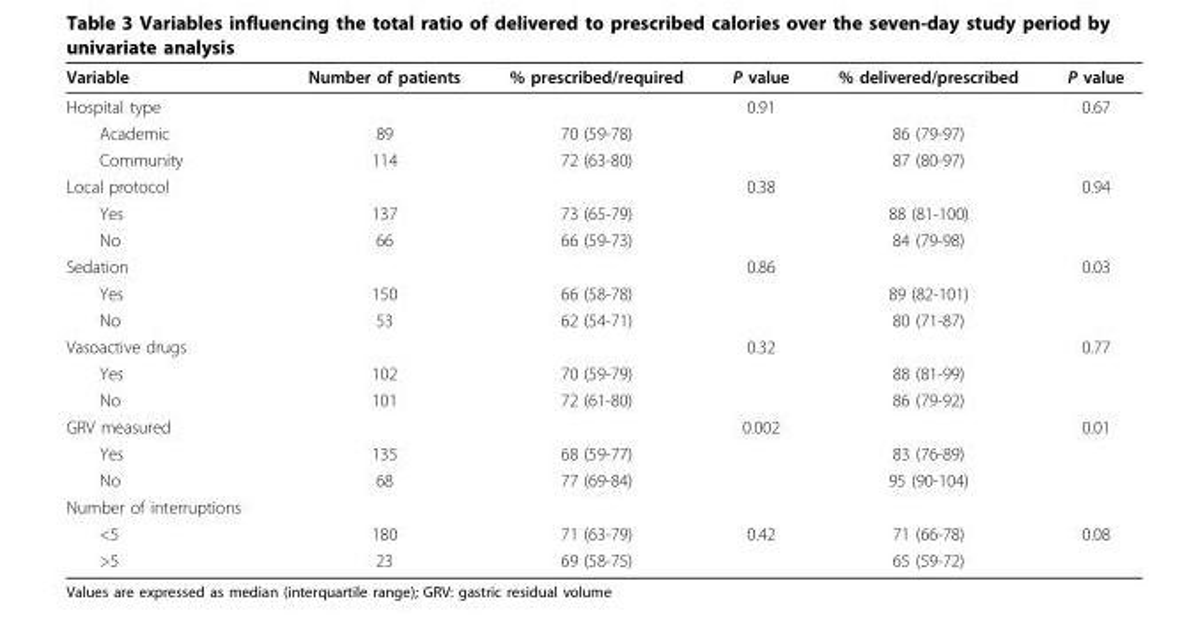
<table><thead><tr><td>Variable</td><td>Number of patients</td><td>% prescribed/required</td><td>P value</td><td>% delivered/prescribed</td><td>P value</td></tr></thead><tbody><tr><td>Hospital type</td><td></td><td></td><td>0.91</td><td></td><td>0.67</td></tr><tr><td>Academic</td><td>89</td><td>70 (59-78)</td><td></td><td>86 (79-97)</td><td></td></tr><tr><td>Community</td><td>114</td><td>72 (63-80)</td><td></td><td>87 (80-97)</td><td></td></tr><tr><td>Local protocol</td><td></td><td></td><td>0.38</td><td></td><td>0.94</td></tr><tr><td>Yes</td><td>137</td><td>73 (65-79)</td><td></td><td>88 (81-100)</td><td></td></tr><tr><td>No</td><td>66</td><td>66 (59-73)</td><td></td><td>84 (79-98)</td><td></td></tr><tr><td>Sedation</td><td></td><td></td><td>0.86</td><td></td><td>0.03</td></tr><tr><td>Yes</td><td>150</td><td>66 (58-78)</td><td></td><td>89 (82-101)</td><td></td></tr><tr><td>No</td><td>53</td><td>62 (54-71)</td><td></td><td>80 (71-87)</td><td></td></tr><tr><td>Vasoactive drugs</td><td></td><td></td><td>0.32</td><td></td><td>0.77</td></tr><tr><td>Yes</td><td>102</td><td>70 (59-79)</td><td></td><td>88 (81-99)</td><td></td></tr><tr><td>No</td><td>101</td><td>72 (61-80)</td><td></td><td>86 (79-92)</td><td></td></tr><tr><td>GRV measured</td><td></td><td></td><td>0.002</td><td></td><td>0.01</td></tr><tr><td>Yes</td><td>135</td><td>68 (59-77)</td><td></td><td>83 (76-89)</td><td></td></tr><tr><td>No</td><td>68</td><td>77 (69-84)</td><td></td><td>95 (90-104)</td><td></td></tr><tr><td colspan="6">Number of interruptions</td></tr><tr><td>&lt;5</td><td>180</td><td>71 (63-79)</td><td>0.42</td><td>71 (66-78)</td><td>0.08</td></tr><tr><td>&gt;5</td><td>23</td><td>69 (58-75)</td><td></td><td>65 (59-72)</td><td></td></tr></tbody></table>